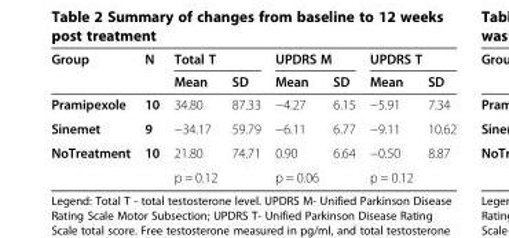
<table><thead><tr><td rowspan="2">Group</td><td rowspan="2">N</td><td colspan="2">Total T</td><td colspan="2">UPDRS M</td><td colspan="2">UPDRS T</td></tr><tr><td>Mean</td><td>SD</td><td>Mean</td><td>SD</td><td>Mean</td><td>SD</td></tr></thead><tbody><tr><td>Pramipexole</td><td>10</td><td>34.80</td><td>87.33</td><td>−4.27</td><td>6.15</td><td>−5.91</td><td>7.34</td></tr><tr><td>Sinemet</td><td>9</td><td>−34.17</td><td>59.79</td><td>−6.11</td><td>6.77</td><td>−9.11</td><td>10.62</td></tr><tr><td rowspan="2">NoTreatment</td><td>10</td><td>21.80</td><td>74.71</td><td>0.90</td><td>6.64</td><td>−0.50</td><td>8.87</td></tr><tr><td></td><td>p = 0.12</td><td></td><td>p = 0.06</td><td></td><td>p = 0.12</td><td></td></tr></tbody></table>